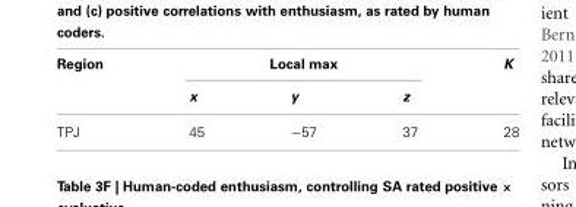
<table><thead><tr><td rowspan="2">Region</td><td colspan="3">Local max</td><td rowspan="2">K</td></tr><tr><td>x</td><td>y</td><td>z</td></tr></thead><tbody><tr><td>TPJ</td><td>45</td><td>−57</td><td>37</td><td>28</td></tr></tbody></table>